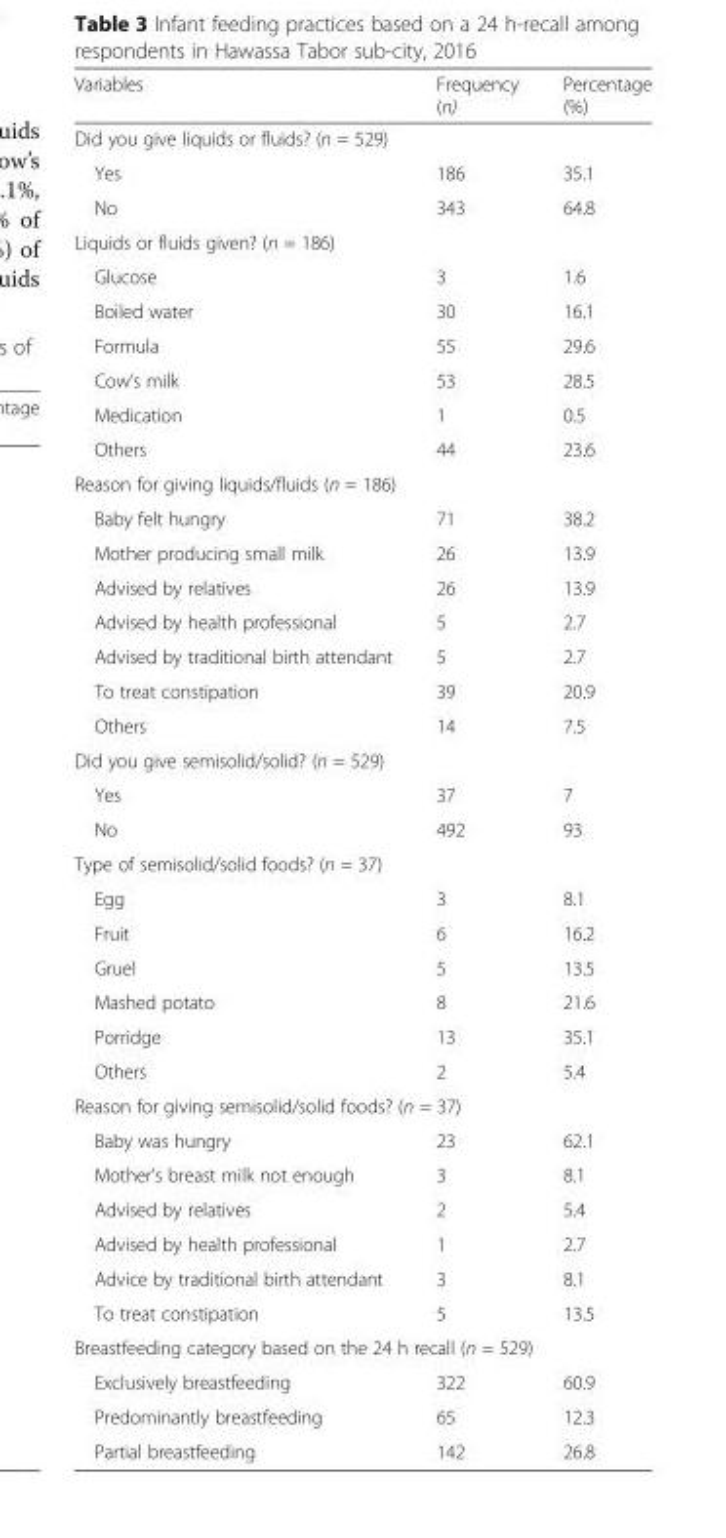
<table><thead><tr><td>Variables</td><td>Frequency (n)</td><td>Percentage (%)</td></tr></thead><tbody><tr><td colspan="3">Did you give liquids or fluids? (n = 529)</td></tr><tr><td>Yes</td><td>186</td><td>35.1</td></tr><tr><td>No</td><td>343</td><td>64.8</td></tr><tr><td colspan="3">Liquids or fluids given? (n = 186)</td></tr><tr><td>Glucose</td><td>3</td><td>1.6</td></tr><tr><td>Boiled water</td><td>30</td><td>16.1</td></tr><tr><td>Formula</td><td>55</td><td>29.6</td></tr><tr><td>Cow’s milk</td><td>53</td><td>28.5</td></tr><tr><td>Medication</td><td>1</td><td>0.5</td></tr><tr><td>Others</td><td>44</td><td>23.6</td></tr><tr><td colspan="3">Reason for giving liquids/fluids (n = 186)</td></tr><tr><td>Baby felt hungry</td><td>71</td><td>38.2</td></tr><tr><td>Mother producing small milk</td><td>26</td><td>13.9</td></tr><tr><td>Advised by relatives</td><td>26</td><td>13.9</td></tr><tr><td>Advised by health professional</td><td>5</td><td>2.7</td></tr><tr><td>Advised by traditional birth attendant</td><td>5</td><td>2.7</td></tr><tr><td>To treat constipation</td><td>39</td><td>20.9</td></tr><tr><td>Others</td><td>14</td><td>7.5</td></tr><tr><td colspan="3">Did you give semisolid/solid? (n = 529)</td></tr><tr><td>Yes</td><td>37</td><td>7</td></tr><tr><td>No</td><td>492</td><td>93</td></tr><tr><td colspan="3">Type of semisolid/solid foods? (n = 37)</td></tr><tr><td>Egg</td><td>3</td><td>8.1</td></tr><tr><td>Fruit</td><td>6</td><td>16.2</td></tr><tr><td>Gruel</td><td>5</td><td>13.5</td></tr><tr><td>Mashed potato</td><td>8</td><td>21.6</td></tr><tr><td>Porridge</td><td>13</td><td>35.1</td></tr><tr><td>Others</td><td>2</td><td>5.4</td></tr><tr><td colspan="3">Reason for giving semisolid/solid foods? (n = 37)</td></tr><tr><td>Baby was hungry</td><td>23</td><td>62.1</td></tr><tr><td>Mother’s breast milk not enough</td><td>3</td><td>8.1</td></tr><tr><td>Advised by relatives</td><td>2</td><td>5.4</td></tr><tr><td>Advised by health professional</td><td>1</td><td>2.7</td></tr><tr><td>Advice by traditional birth attendant</td><td>3</td><td>8.1</td></tr><tr><td>To treat constipation</td><td>5</td><td>13.5</td></tr><tr><td colspan="3">Breastfeeding category based on the 24 h recall (n = 529)</td></tr><tr><td>Exclusively breastfeeding</td><td>322</td><td>60.9</td></tr><tr><td>Predominantly breastfeeding</td><td>65</td><td>12.3</td></tr><tr><td>Partial breastfeeding</td><td>142</td><td>26.8</td></tr></tbody></table>